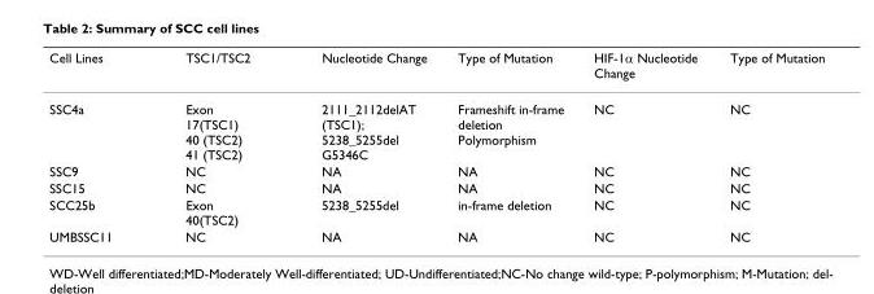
<table><thead><tr><td>Cell Lines</td><td>TSC1/TSC2</td><td>Nucleotide Change</td><td>Type of Mutation</td><td>HIF-1α Nucleotide Change</td><td>Type of Mutation</td></tr></thead><tbody><tr><td>SSC4a</td><td>Exon 17(TSC1) 40 (TSC2) 41 (TSC2)</td><td>2111_2112delAT (TSC1); 5238_5255del G5346C</td><td>Frameshift in-frame deletion Polymorphism</td><td>NC</td><td>NC</td></tr><tr><td>SSC9</td><td>NC</td><td>NA</td><td>NA</td><td>NC</td><td>NC</td></tr><tr><td>SSC15</td><td>NC</td><td>NA</td><td>NA</td><td>NC</td><td>NC</td></tr><tr><td>SCC25b</td><td>Exon 40(TSC2)</td><td>5238_5255del</td><td>in-frame deletion</td><td>NC</td><td>NC</td></tr><tr><td>UMBSSC11</td><td>NC</td><td>NA</td><td>NA</td><td>NC</td><td>NC</td></tr></tbody></table>